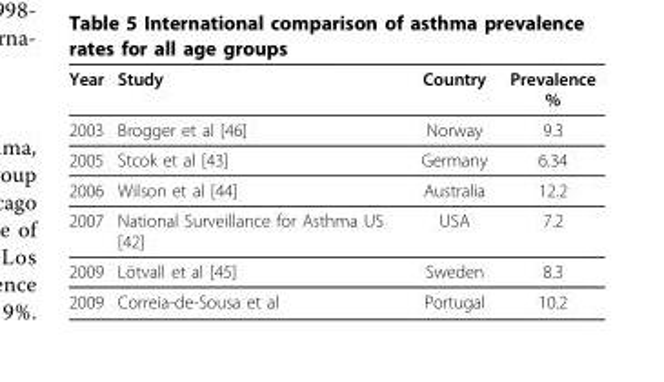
<table><thead><tr><td>Year</td><td>Study</td><td>Country</td><td>Prevalence %</td></tr></thead><tbody><tr><td>2003</td><td>Brogger et al [46]</td><td>Norway</td><td>9.3</td></tr><tr><td>2005</td><td>Stcok et al [43]</td><td>Germany</td><td>6.34</td></tr><tr><td>2006</td><td>Wilson et al [44]</td><td>Australia</td><td>12.2</td></tr><tr><td>2007</td><td>National Surveillance for Asthma US [42]</td><td>USA</td><td>7.2</td></tr><tr><td>2009</td><td>Lötvall et al [45]</td><td>Sweden</td><td>8.3</td></tr><tr><td>2009</td><td>Correia-de-Sousa et al</td><td>Portugal</td><td>10.2</td></tr></tbody></table>